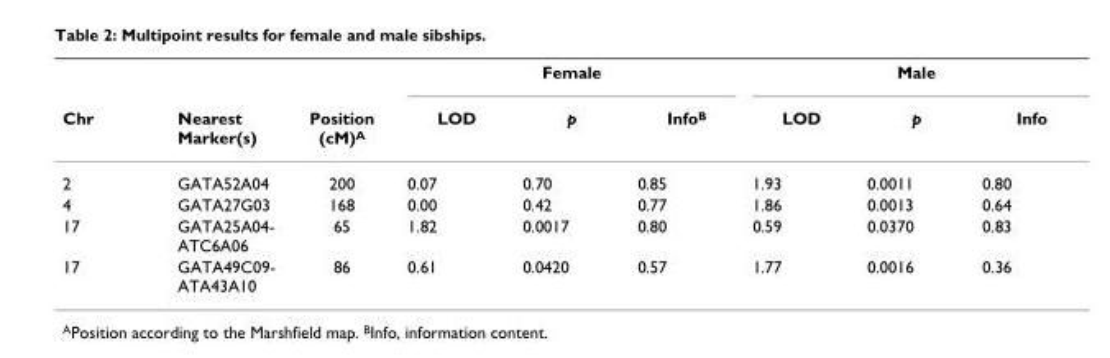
<table><thead><tr><td rowspan="2">Chr</td><td rowspan="2">Nearest Marker(s)</td><td rowspan="2">Position (cM)A</td><td colspan="3">Female</td><td colspan="3">Male</td></tr><tr><td>LOD</td><td>p</td><td>InfoB</td><td>LOD</td><td>p</td><td>Info</td></tr></thead><tbody><tr><td>2</td><td>GATA52A04</td><td>200</td><td>0.07</td><td>0.70</td><td>0.85</td><td>1.93</td><td>0.0011</td><td>0.80</td></tr><tr><td>4</td><td>GATA27G03</td><td>168</td><td>0.00</td><td>0.42</td><td>0.77</td><td>1.86</td><td>0.0013</td><td>0.64</td></tr><tr><td>17</td><td>GATA25A04- ATC6A06</td><td>65</td><td>1.82</td><td>0.0017</td><td>0.80</td><td>0.59</td><td>0.0370</td><td>0.83</td></tr><tr><td>17</td><td>GATA49C09- ATA43A10</td><td>86</td><td>0.61</td><td>0.0420</td><td>0.57</td><td>1.77</td><td>0.0016</td><td>0.36</td></tr></tbody></table>